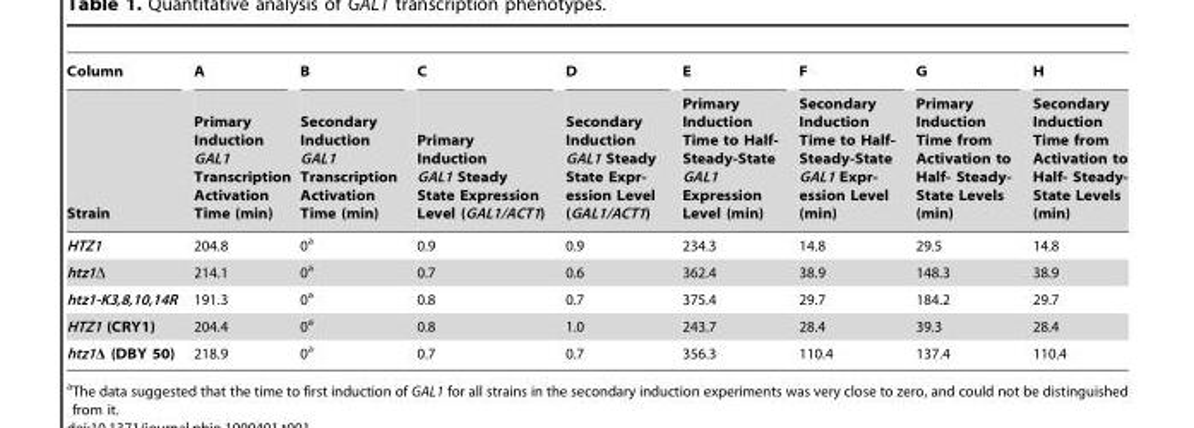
<table><thead><tr><td rowspan="2">Column Strain</td><td rowspan="2">A Primary Induction GAL1 Transcription Activation Time (min)</td><td rowspan="2">B Secondary Induction GAL1 Transcription Activation Time (min)</td><td rowspan="2">C Primary Induction GAL1 Steady State Expression Level (GAL1/ACT1)</td><td rowspan="2">D Secondary Induction GAL1 Steady State Expr- ession Level (GAL1/ACT1)</td><td rowspan="2">E Primary Induction Time to Half- Steady-State GAL1 Expression Level (min)</td><td rowspan="2">F Secondary Induction Time to Half- Steady-State GAL1 Expr- ession Level (min)</td><td rowspan="2">G Primary Induction Time from Activation to Half- Steady- State Levels (min)</td><td rowspan="2">H Secondary Induction Time from Activation to Half- Steady- State Levels (min)</td></tr><tr></tr></thead><tbody><tr><td>HTZ1</td><td>204.8</td><td>0<sup>a</sup></td><td>0.9</td><td>0.9</td><td>234.3</td><td>14.8</td><td>29.5</td><td>14.8</td></tr><tr><td>htz1Δ</td><td>214.1</td><td>0<sup>a</sup></td><td>0.7</td><td>0.6</td><td>362.4</td><td>38.9</td><td>148.3</td><td>38.9</td></tr><tr><td>htz1-K3,8,10,14R</td><td>191.3</td><td>0<sup>a</sup></td><td>0.8</td><td>0.7</td><td>375.4</td><td>29.7</td><td>184.2</td><td>29.7</td></tr><tr><td>HTZ1 (CRY1)</td><td>204.4</td><td>0<sup>a</sup></td><td>0.8</td><td>1.0</td><td>243.7</td><td>28.4</td><td>39.3</td><td>28.4</td></tr><tr><td>htz1Δ (DBY 50)</td><td>218.9</td><td>0<sup>a</sup></td><td>0.7</td><td>0.7</td><td>356.3</td><td>110.4</td><td>137.4</td><td>110.4</td></tr></tbody></table>